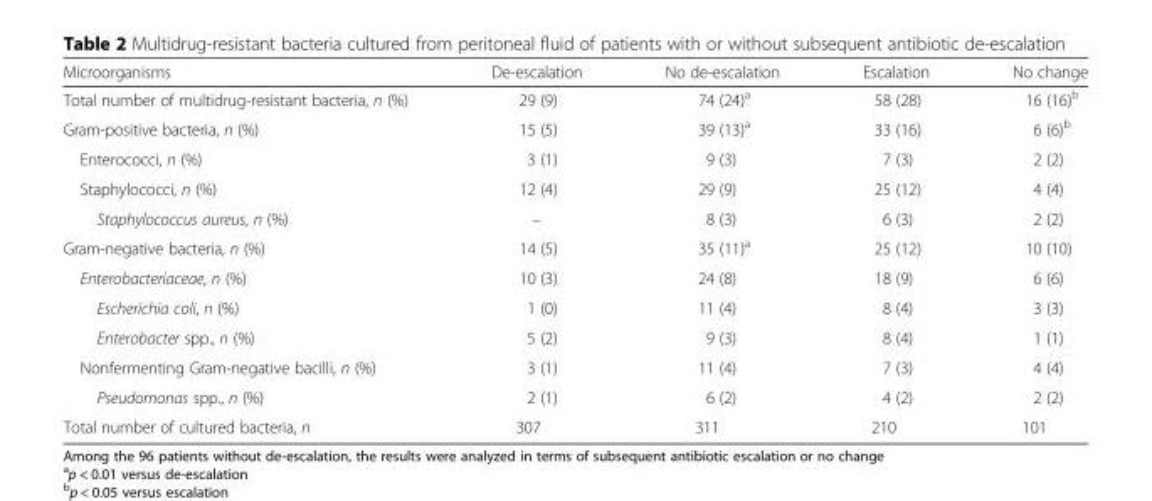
<table><thead><tr><td>Microorganisms</td><td>De-escalation</td><td>No de-escalation</td><td>Escalation</td><td>No change</td></tr></thead><tbody><tr><td>Total number of multidrug-resistant bacteria, n (%)</td><td>29 (9)</td><td>74 (24)<sup>a</sup></td><td>58 (28)</td><td>16 (16)<sup>b</sup></td></tr><tr><td>Gram-positive bacteria, n (%)</td><td>15 (5)</td><td>39 (13)<sup>a</sup></td><td>33 (16)</td><td>6 (6)<sup>b</sup></td></tr><tr><td>Enterococci, n (%)</td><td>3 (1)</td><td>9 (3)</td><td>7 (3)</td><td>2 (2)</td></tr><tr><td>Staphylococci, n (%)</td><td>12 (4)</td><td>29 (9)</td><td>25 (12)</td><td>4 (4)</td></tr><tr><td>Staphylococcus aureus, n (%)</td><td>–</td><td>8 (3)</td><td>6 (3)</td><td>2 (2)</td></tr><tr><td>Gram-negative bacteria, n (%)</td><td>14 (5)</td><td>35 (11)<sup>a</sup></td><td>25 (12)</td><td>10 (10)</td></tr><tr><td>Enterobacteriaceae, n (%)</td><td>10 (3)</td><td>24 (8)</td><td>18 (9)</td><td>6 (6)</td></tr><tr><td>Escherichia coli, n (%)</td><td>1 (0)</td><td>11 (4)</td><td>8 (4)</td><td>3 (3)</td></tr><tr><td>Enterobacter spp., n (%)</td><td>5 (2)</td><td>9 (3)</td><td>8 (4)</td><td>1 (1)</td></tr><tr><td>Nonfermenting Gram-negative bacilli, n (%)</td><td>3 (1)</td><td>11 (4)</td><td>7 (3)</td><td>4 (4)</td></tr><tr><td>Pseudomonas spp., n (%)</td><td>2 (1)</td><td>6 (2)</td><td>4 (2)</td><td>2 (2)</td></tr><tr><td>Total number of cultured bacteria, n</td><td>307</td><td>311</td><td>210</td><td>101</td></tr></tbody></table>